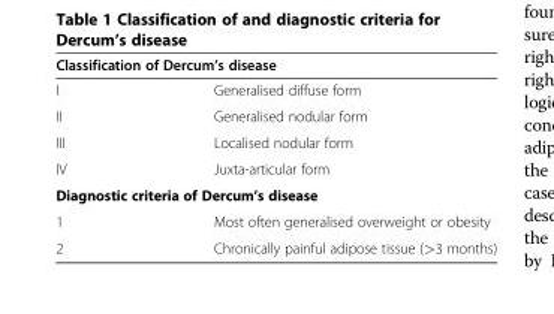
<table><thead><tr><td colspan="2">Classification of Dercum’s disease</td></tr><tr><td>I</td><td>Generalised diffuse form</td></tr></thead><tbody><tr><td>II</td><td>Generalised nodular form</td></tr><tr><td>III</td><td>Localised nodular form</td></tr><tr><td>IV</td><td>Juxta-articular form</td></tr><tr><td colspan="2">Diagnostic criteria of Dercum’s disease</td></tr><tr><td>1</td><td>Most often generalised overweight or obesity</td></tr><tr><td>2</td><td>Chronically painful adipose tissue (&gt;3 months)</td></tr></tbody></table>